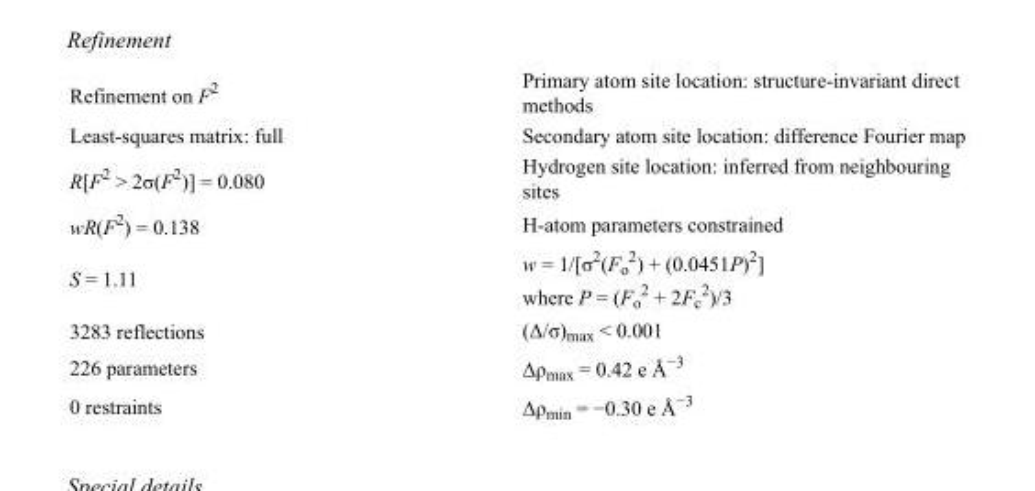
<table><tbody><tr><td>Refinement on F<sup>2</sup></td><td>Primary atom site location: structure-invariant direct methods</td></tr><tr><td>Least-squares matrix: full</td><td>Secondary atom site location: difference Fourier map</td></tr><tr><td>R[F<sup>2</sup> &gt; 2σ(F<sup>2</sup>)] = 0.080</td><td>Hydrogen site location: inferred from neighbouring sites</td></tr><tr><td>wR(F<sup>2</sup>) = 0.138</td><td>H-atom parameters constrained</td></tr><tr><td>S = 1.11</td><td>w = 1/[σ<sup>2</sup>(F<sub>o</sub> <sup>2</sup>) + (0.0451P)<sup>2</sup>] where P = (F<sub>o</sub> <sup>2</sup> + 2F<sub>c</sub> <sup>2</sup>)/3</td></tr><tr><td>3283 reflections</td><td>(Δ/σ)<sub>max</sub> &lt; 0.001</td></tr><tr><td>226 parameters</td><td>Δρ<sub>max</sub> = 0.42 e Å<sup>−3</sup></td></tr><tr><td>0 restraints</td><td>Δρ<sub>min</sub> = −0.30 e Å<sup>−3</sup></td></tr></tbody></table>